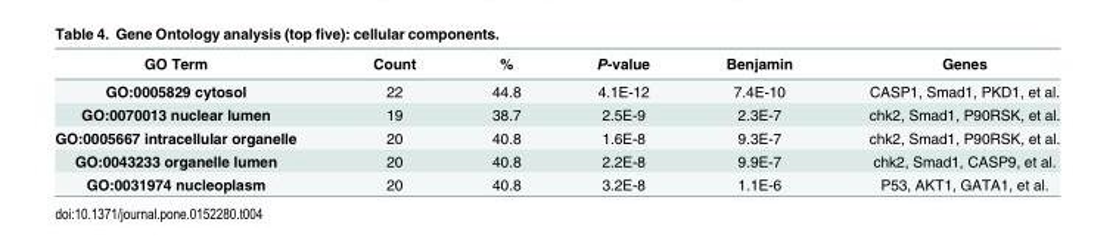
<table><thead><tr><td>GO Term</td><td>Count</td><td>%</td><td>P-value</td><td>Benjamin</td><td>Genes</td></tr></thead><tbody><tr><td>GO:0005829 cytosol</td><td>22</td><td>44.8</td><td>4.1E-12</td><td>7.4E-10</td><td>CASP1, Smad1, PKD1, et al.</td></tr><tr><td>GO:0070013 nuclear lumen</td><td>19</td><td>38.7</td><td>2.5E-9</td><td>2.3E-7</td><td>chk2, Smad1, P90RSK, et al.</td></tr><tr><td>GO:0005667 intracellular organelle</td><td>20</td><td>40.8</td><td>1.6E-8</td><td>9.3E-7</td><td>chk2, Smad1, P90RSK, et al.</td></tr><tr><td>GO:0043233 organelle lumen</td><td>20</td><td>40.8</td><td>2.2E-8</td><td>9.9E-7</td><td>chk2, Smad1, CASP9, et al.</td></tr><tr><td>GO:0031974 nucleoplasm</td><td>20</td><td>40.8</td><td>3.2E-8</td><td>1.1E-6</td><td>P53, AKT1, GATA1, et al.</td></tr></tbody></table>